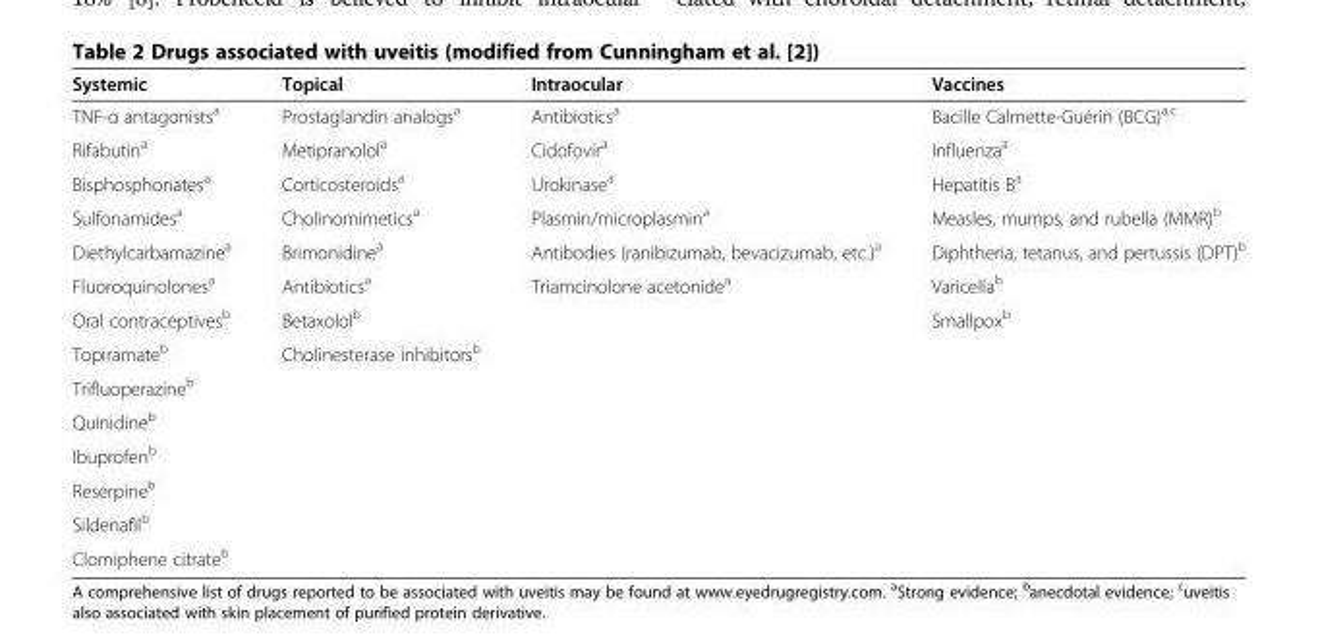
<table><thead><tr><td>Systemic</td><td>Topical</td><td>Intraocular</td><td>Vaccines</td></tr></thead><tbody><tr><td>TNF-α antagonists<sup>a</sup></td><td>Prostaglandin analogs<sup>a</sup></td><td>Antibiotics<sup>a</sup></td><td>Bacille Calmette-Guérin (BCG)<sup>a,c</sup></td></tr><tr><td>Rifabutin<sup>a</sup></td><td>Metipranolol<sup>a</sup></td><td>Cidofovir<sup>a</sup></td><td>Influenza<sup>a</sup></td></tr><tr><td>Bisphosphonates<sup>a</sup></td><td>Corticosteroids<sup>a</sup></td><td>Urokinase<sup>a</sup></td><td>Hepatitis B<sup>a</sup></td></tr><tr><td>Sulfonamides<sup>a</sup></td><td>Cholinomimetics<sup>a</sup></td><td>Plasmin/microplasmin<sup>a</sup></td><td>Measles, mumps, and rubella (MMR)<sup>b</sup></td></tr><tr><td>Diethylcarbamazine<sup>a</sup></td><td>Brimonidine<sup>a</sup></td><td>Antibodies (ranibizumab, bevacizumab, etc.)<sup>a</sup></td><td>Diphtheria, tetanus, and pertussis (DPT)<sup>b</sup></td></tr><tr><td>Fluoroquinolones<sup>a</sup></td><td>Antibiotics<sup>a</sup></td><td>Triamcinolone acetonide<sup>a</sup></td><td>Varicella<sup>b</sup></td></tr><tr><td>Oral contraceptives<sup>b</sup></td><td>Betaxolol<sup>b</sup></td><td></td><td>Smallpox<sup>b</sup></td></tr><tr><td>Topiramate<sup>b</sup></td><td>Cholinesterase inhibitors<sup>b</sup></td><td></td><td></td></tr><tr><td colspan="4">Trifluoperazine<sup>b</sup></td></tr><tr><td colspan="4">Quinidine<sup>b</sup></td></tr><tr><td colspan="4">Ibuprofen<sup>b</sup></td></tr><tr><td colspan="4">Reserpine<sup>b</sup></td></tr><tr><td colspan="4">Sildenafil<sup>b</sup></td></tr><tr><td>Clomiphene citrate<sup>b</sup></td><td></td><td></td><td></td></tr></tbody></table>